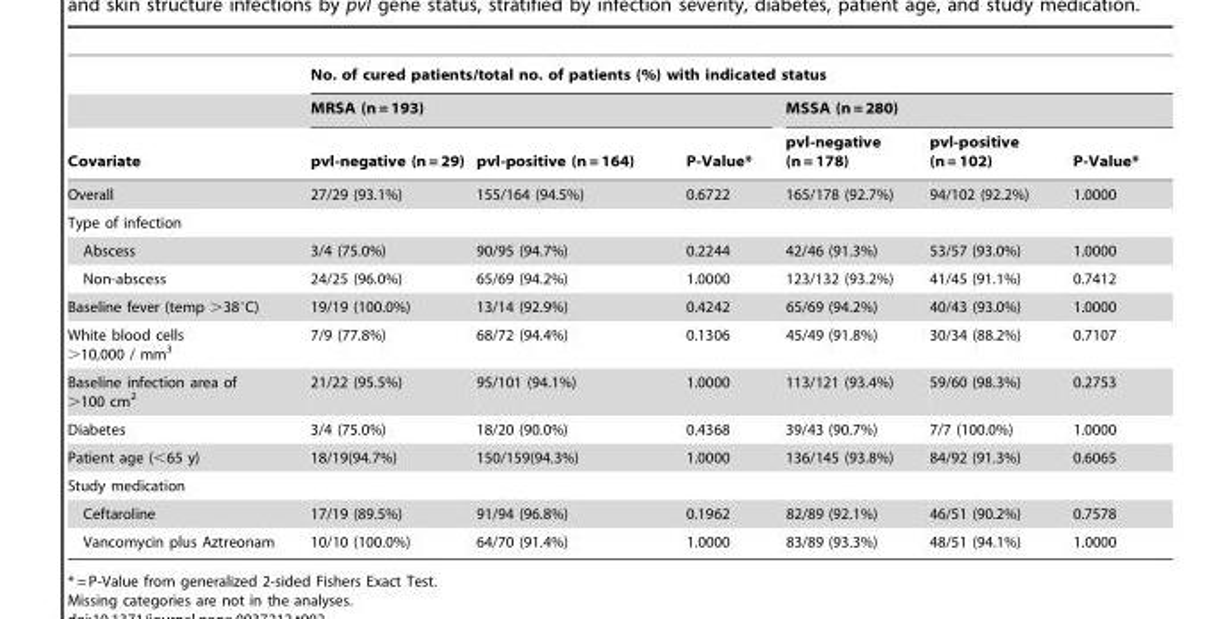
<table><thead><tr><td rowspan="3">Covariate</td><td colspan="6">No. of cured patients/total no. of patients (%) with indicated status</td></tr><tr><td colspan="3">MRSA (n = 193)</td><td colspan="3">MSSA (n = 280)</td></tr><tr><td>pvl-negative (n = 29)</td><td>pvl-positive (n = 164)</td><td>P-Value*</td><td>pvl-negative (n = 178)</td><td>pvl-positive (n = 102)</td><td>P-Value*</td></tr></thead><tbody><tr><td>Overall</td><td>27/29 (93.1%)</td><td>155/164 (94.5%)</td><td>0.6722</td><td>165/178 (92.7%)</td><td>94/102 (92.2%)</td><td>1.0000</td></tr><tr><td colspan="7">Type of infection</td></tr><tr><td>Abscess</td><td>3/4 (75.0%)</td><td>90/95 (94.7%)</td><td>0.2244</td><td>42/46 (91.3%)</td><td>53/57 (93.0%)</td><td>1.0000</td></tr><tr><td>Non-abscess</td><td>24/25 (96.0%)</td><td>65/69 (94.2%)</td><td>1.0000</td><td>123/132 (93.2%)</td><td>41/45 (91.1%)</td><td>0.7412</td></tr><tr><td>Baseline fever (temp &gt;38°C)</td><td>19/19 (100.0%)</td><td>13/14 (92.9%)</td><td>0.4242</td><td>65/69 (94.2%)</td><td>40/43 (93.0%)</td><td>1.0000</td></tr><tr><td>White blood cells &gt;10,000 / mm<sup>3</sup></td><td>7/9 (77.8%)</td><td>68/72 (94.4%)</td><td>0.1306</td><td>45/49 (91.8%)</td><td>30/34 (88.2%)</td><td>0.7107</td></tr><tr><td>Baseline infection area of &gt;100 cm<sup>2</sup></td><td>21/22 (95.5%)</td><td>95/101 (94.1%)</td><td>1.0000</td><td>113/121 (93.4%)</td><td>59/60 (98.3%)</td><td>0.2753</td></tr><tr><td>Diabetes</td><td>3/4 (75.0%)</td><td>18/20 (90.0%)</td><td>0.4368</td><td>39/43 (90.7%)</td><td>7/7 (100.0%)</td><td>1.0000</td></tr><tr><td>Patient age (&lt;65 y)</td><td>18/19(94.7%)</td><td>150/159(94.3%)</td><td>1.0000</td><td>136/145 (93.8%)</td><td>84/92 (91.3%)</td><td>0.6065</td></tr><tr><td colspan="7">Study medication</td></tr><tr><td>Ceftaroline</td><td>17/19 (89.5%)</td><td>91/94 (96.8%)</td><td>0.1962</td><td>82/89 (92.1%)</td><td>46/51 (90.2%)</td><td>0.7578</td></tr><tr><td>Vancomycin plus Aztreonam</td><td>10/10 (100.0%)</td><td>64/70 (91.4%)</td><td>1.0000</td><td>83/89 (93.3%)</td><td>48/51 (94.1%)</td><td>1.0000</td></tr></tbody></table>